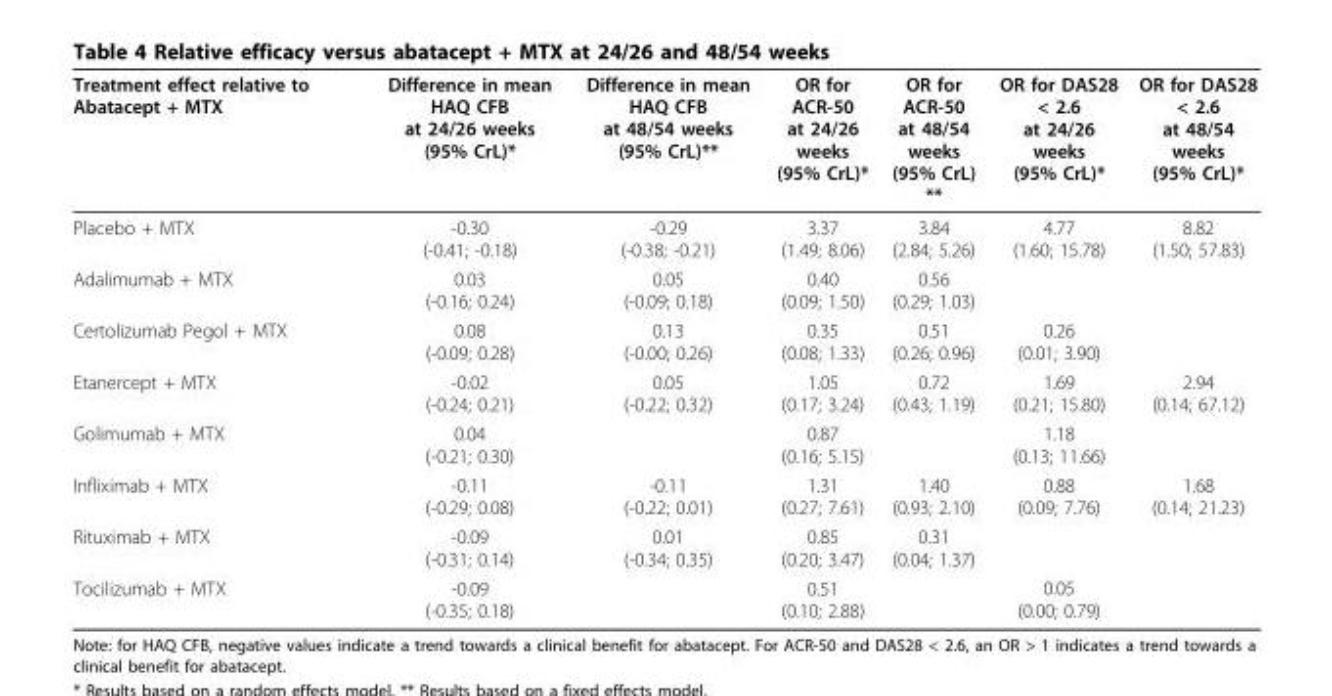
<table><thead><tr><td>Treatment effect relative to Abatacept + MTX</td><td>Difference in mean HAQ CFB at 24/26 weeks (95% CrL)*</td><td>Difference in mean HAQ CFB at 48/54 weeks (95% CrL)**</td><td>OR for ACR-50 at 24/26 weeks (95% CrL)*</td><td>OR for ACR-50 at 48/54 weeks (95% CrL) **</td><td>OR for DAS28 &lt; 2.6 at 24/26 weeks (95% CrL)*</td><td>OR for DAS28 &lt; 2.6 at 48/54 weeks (95% CrL)*</td></tr></thead><tbody><tr><td>Placebo + MTX</td><td>-0.30 (-0.41; -0.18)</td><td>-0.29 (-0.38; -0.21)</td><td>3.37 (1.49; 8.06)</td><td>3.84 (2.84; 5.26)</td><td>4.77 (1.60; 15.78)</td><td>8.82 (1.50; 57.83)</td></tr><tr><td>Adalimumab + MTX</td><td>0.03 (-0.16; 0.24)</td><td>0.05 (-0.09; 0.18)</td><td>0.40 (0.09; 1.50)</td><td>0.56 (0.29; 1.03)</td><td></td><td></td></tr><tr><td>Certolizumab Pegol + MTX</td><td>0.08 (-0.09; 0.28)</td><td>0.13 (-0.00; 0.26)</td><td>0.35 (0.08; 1.33)</td><td>0.51 (0.26; 0.96)</td><td>0.26 (0.01; 3.90)</td><td></td></tr><tr><td>Etanercept + MTX</td><td>-0.02 (-0.24; 0.21)</td><td>0.05 (-0.22; 0.32)</td><td>1.05 (0.17; 3.24)</td><td>0.72 (0.43; 1.19)</td><td>1.69 (0.21; 15.80)</td><td>2.94 (0.14; 67.12)</td></tr><tr><td>Golimumab + MTX</td><td>0.04 (-0.21; 0.30)</td><td></td><td>0.87 (0.16; 5.15)</td><td></td><td>1.18 (0.13; 11.66)</td><td></td></tr><tr><td>Infliximab + MTX</td><td>-0.11 (-0.29; 0.08)</td><td>-0.11 (-0.22; 0.01)</td><td>1.31 (0.27; 7.61)</td><td>1.40 (0.93; 2.10)</td><td>0.88 (0.09; 7.76)</td><td>1.68 (0.14; 21.23)</td></tr><tr><td>Rituximab + MTX</td><td>-0.09 (-0.31; 0.14)</td><td>0.01 (-0.34; 0.35)</td><td>0.85 (0.20; 3.47)</td><td>0.31 (0.04; 1.37)</td><td></td><td></td></tr><tr><td>Tocilizumab + MTX</td><td>-0.09 (-0.35; 0.18)</td><td></td><td>0.51 (0.10; 2.88)</td><td></td><td>0.05 (0.00; 0.79)</td><td></td></tr></tbody></table>